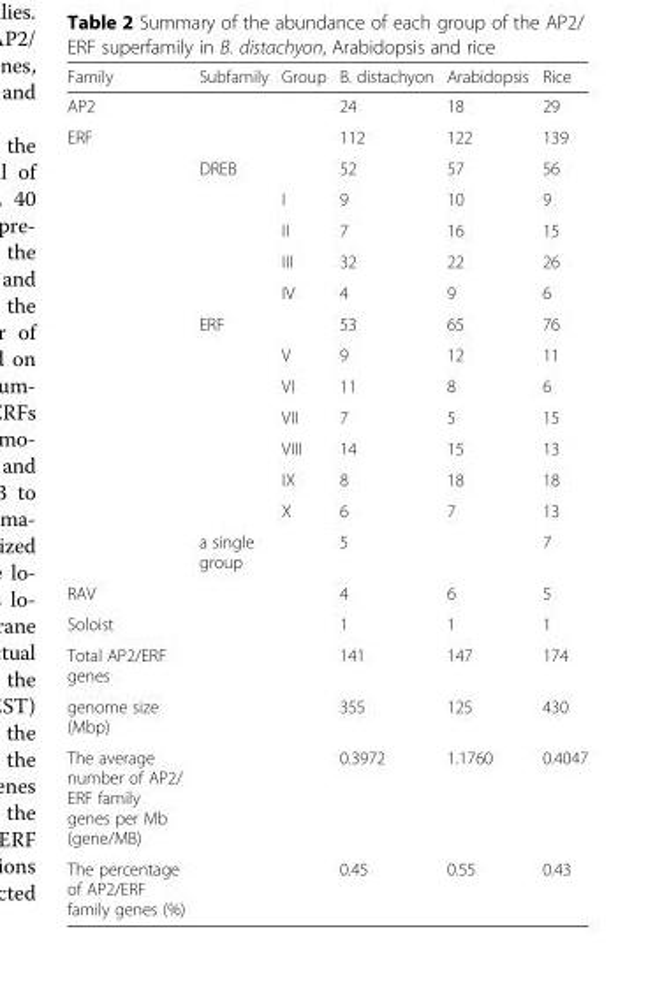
<table><thead><tr><td>Family</td><td>Subfamily</td><td>Group</td><td>B. distachyon</td><td>Arabidopsis</td><td>Rice</td></tr></thead><tbody><tr><td>AP2</td><td></td><td></td><td>24</td><td>18</td><td>29</td></tr><tr><td rowspan="14">ERF</td><td></td><td></td><td>112</td><td>122</td><td>139</td></tr><tr><td rowspan="5">DREB</td><td></td><td>52</td><td>57</td><td>56</td></tr><tr><td>I</td><td>9</td><td>10</td><td>9</td></tr><tr><td>II</td><td>7</td><td>16</td><td>15</td></tr><tr><td>III</td><td>32</td><td>22</td><td>26</td></tr><tr><td>IV</td><td>4</td><td>9</td><td>6</td></tr><tr><td rowspan="7">ERF</td><td></td><td>53</td><td>65</td><td>76</td></tr><tr><td>V</td><td>9</td><td>12</td><td>11</td></tr><tr><td>VI</td><td>11</td><td>8</td><td>6</td></tr><tr><td>VII</td><td>7</td><td>5</td><td>15</td></tr><tr><td>VIII</td><td>14</td><td>15</td><td>13</td></tr><tr><td>IX</td><td>8</td><td>18</td><td>18</td></tr><tr><td>X</td><td>6</td><td>7</td><td>13</td></tr><tr><td>a single group</td><td></td><td>5</td><td></td><td>7</td></tr><tr><td>RAV</td><td></td><td></td><td>4</td><td>6</td><td>5</td></tr><tr><td>Soloist</td><td></td><td></td><td>1</td><td>1</td><td>1</td></tr><tr><td>Total AP2/ERF genes</td><td></td><td></td><td>141</td><td>147</td><td>174</td></tr><tr><td>genome size (Mbp)</td><td></td><td></td><td>355</td><td>125</td><td>430</td></tr><tr><td>The average number of AP2/ ERF family genes per Mb (gene/MB)</td><td></td><td></td><td>0.3972</td><td>1.1760</td><td>0.4047</td></tr><tr><td>The percentage of AP2/ERF family genes (%)</td><td></td><td></td><td>0.45</td><td>0.55</td><td>0.43</td></tr></tbody></table>